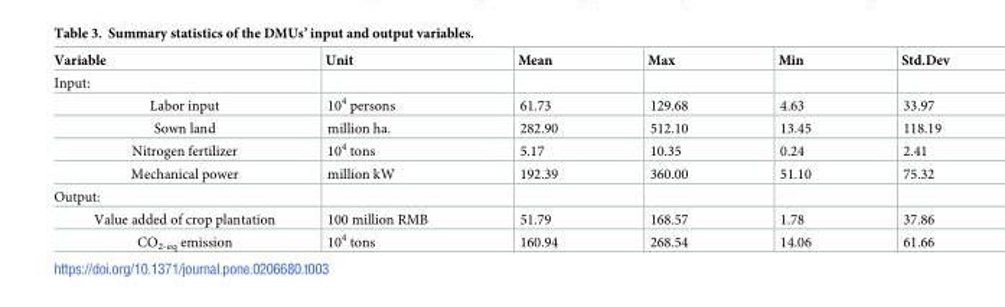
<table><thead><tr><td>Variable</td><td>Unit</td><td>Mean</td><td>Max</td><td>Min</td><td>Std.Dev</td></tr></thead><tbody><tr><td colspan="6">Input:</td></tr><tr><td>Labor input</td><td>10<sup>4</sup> persons</td><td>61.73</td><td>129.68</td><td>4.63</td><td>33.97</td></tr><tr><td>Sown land</td><td>million ha.</td><td>282.90</td><td>512.10</td><td>13.45</td><td>118.19</td></tr><tr><td>Nitrogen fertilizer</td><td>10<sup>4</sup> tons</td><td>5.17</td><td>10.35</td><td>0.24</td><td>2.41</td></tr><tr><td>Mechanical power</td><td>million kW</td><td>192.39</td><td>360.00</td><td>51.10</td><td>75.32</td></tr><tr><td colspan="6">Output:</td></tr><tr><td>Value added of crop plantation</td><td>100 million RMB</td><td>51.79</td><td>168.57</td><td>1.78</td><td>37.86</td></tr><tr><td>CO<sub>2-eq</sub> emission</td><td>10<sup>4</sup> tons</td><td>160.94</td><td>268.54</td><td>14.06</td><td>61.66</td></tr></tbody></table>